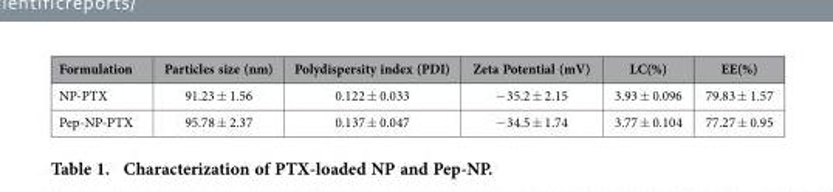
<table><thead><tr><td>Formulation</td><td>Particles size (nm)</td><td>Polydispersity index (PDI)</td><td>Zeta Potential (mV)</td><td>LC(%)</td><td>EE(%)</td></tr></thead><tbody><tr><td>NP-PTX</td><td>91.23 ± 1.56</td><td>0.122 ± 0.033</td><td>− 35.2 ± 2.15</td><td>3.93 ± 0.096</td><td>79.83 ± 1.57</td></tr><tr><td>Pep-NP-PTX</td><td>95.78 ± 2.37</td><td>0.137 ± 0.047</td><td>− 34.5 ± 1.74</td><td>3.77 ± 0.104</td><td>77.27 ± 0.95</td></tr></tbody></table>